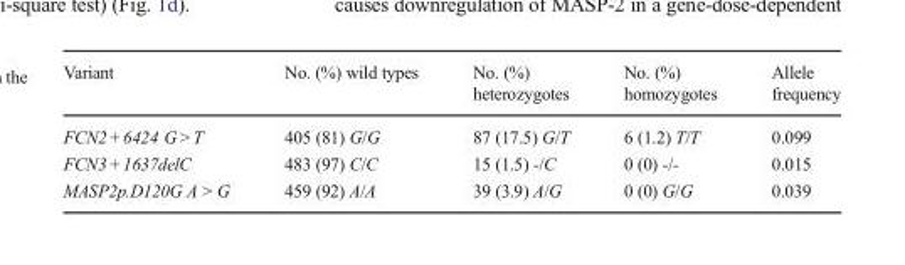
<table><thead><tr><td>Variant</td><td>No. (%) wild types</td><td>No. (%) heterozygotes</td><td>No. (%) homozygotes</td><td>Allele frequency</td></tr></thead><tbody><tr><td>FCN2 + 6424 G &gt; T</td><td>405 (81) G/G</td><td>87 (17.5) G/T</td><td>6 (1.2) T/T</td><td>0.099</td></tr><tr><td>FCN3 + 1637delC</td><td>483 (97) C/C</td><td>15 (1.5) -/C</td><td>0 (0) -/-</td><td>0.015</td></tr><tr><td>MASP2p.D120G A &gt; G</td><td>459 (92) A/A</td><td>39 (3.9) A/G</td><td>0 (0) G/G</td><td>0.039</td></tr></tbody></table>